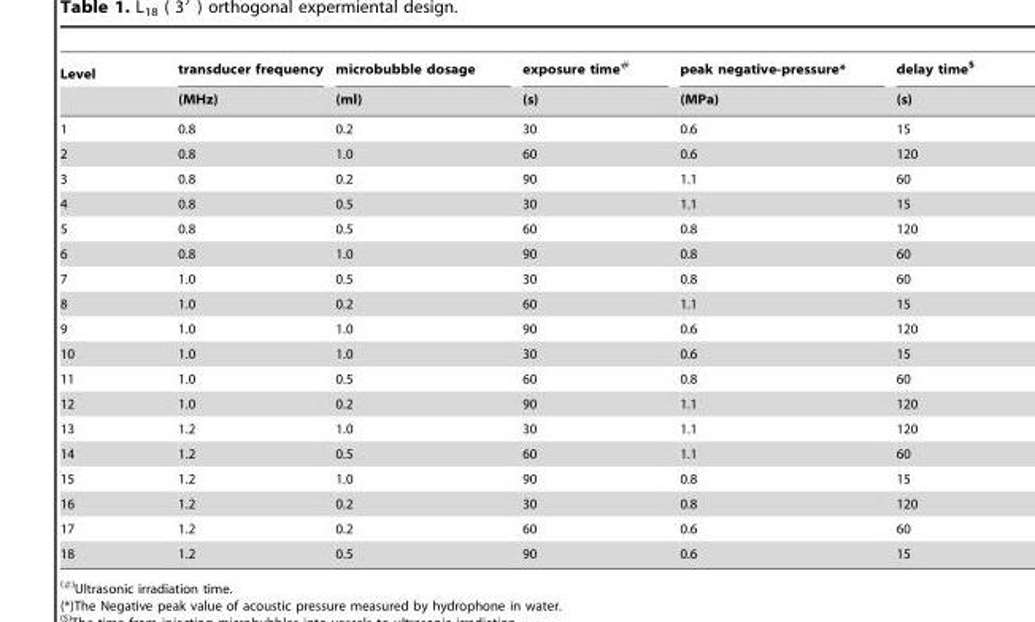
<table><thead><tr><td rowspan="2">Level</td><td rowspan="2">transducer frequency (MHz)</td><td rowspan="2">microbubble dosage (ml)</td><td rowspan="2">exposure time# (s)</td><td rowspan="2">peak negative-pressure* (MPa)</td><td rowspan="2">delay time$ (s)</td></tr><tr></tr></thead><tbody><tr><td>1</td><td>0.8</td><td>0.2</td><td>30</td><td>0.6</td><td>15</td></tr><tr><td>2</td><td>0.8</td><td>1.0</td><td>60</td><td>0.6</td><td>120</td></tr><tr><td>3</td><td>0.8</td><td>0.2</td><td>90</td><td>1.1</td><td>60</td></tr><tr><td>4</td><td>0.8</td><td>0.5</td><td>30</td><td>1.1</td><td>15</td></tr><tr><td>5</td><td>0.8</td><td>0.5</td><td>60</td><td>0.8</td><td>120</td></tr><tr><td>6</td><td>0.8</td><td>1.0</td><td>90</td><td>0.8</td><td>60</td></tr><tr><td>7</td><td>1.0</td><td>0.5</td><td>30</td><td>0.8</td><td>60</td></tr><tr><td>8</td><td>1.0</td><td>0.2</td><td>60</td><td>1.1</td><td>15</td></tr><tr><td>9</td><td>1.0</td><td>1.0</td><td>90</td><td>0.6</td><td>120</td></tr><tr><td>10</td><td>1.0</td><td>1.0</td><td>30</td><td>0.6</td><td>15</td></tr><tr><td>11</td><td>1.0</td><td>0.5</td><td>60</td><td>0.8</td><td>60</td></tr><tr><td>12</td><td>1.0</td><td>0.2</td><td>90</td><td>1.1</td><td>120</td></tr><tr><td>13</td><td>1.2</td><td>1.0</td><td>30</td><td>1.1</td><td>120</td></tr><tr><td>14</td><td>1.2</td><td>0.5</td><td>60</td><td>1.1</td><td>60</td></tr><tr><td>15</td><td>1.2</td><td>1.0</td><td>90</td><td>0.8</td><td>15</td></tr><tr><td>16</td><td>1.2</td><td>0.2</td><td>30</td><td>0.8</td><td>120</td></tr><tr><td>17</td><td>1.2</td><td>0.2</td><td>60</td><td>0.6</td><td>60</td></tr><tr><td>18</td><td>1.2</td><td>0.5</td><td>90</td><td>0.6</td><td>15</td></tr></tbody></table>